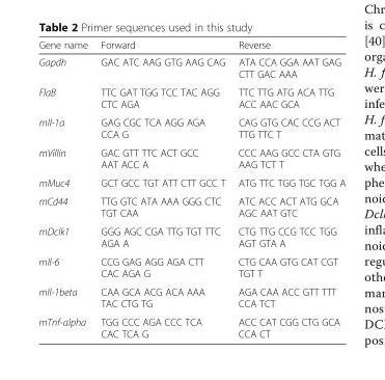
<table><thead><tr><td>Gene name</td><td>Forward</td><td>Reverse</td></tr></thead><tbody><tr><td>Gapdh</td><td>GAC ATC AAG GTG AAG CAG</td><td>ATA CCA GGA AAT GAG CTT GAC AAA</td></tr><tr><td>FlaB</td><td>TTC GAT TGG TCC TAC AGG CTC AGA</td><td>TTC TTG ATG ACA TTG ACC AAC GCA</td></tr><tr><td>mIl-1a</td><td>GAG CGC TCA AGG AGA CCA G</td><td>CAG GTG CAC CCG ACT TTG TTC T</td></tr><tr><td>mVillin</td><td>GAC GTT TTC ACT GCC AAT ACC A</td><td>CCC AAG GCC CTA GTG AAG TCT T</td></tr><tr><td>mMuc4</td><td>GCT GCC TGT ATT CTT GCC T</td><td>ATG TTC TGG TGC TGG A</td></tr><tr><td>mCd44</td><td>TTG GTC ATA AAA GGG CTC TGT CAA</td><td>ATC ACC ACT ATG GCA AGC AAT GTC</td></tr><tr><td>mDclk1</td><td>GGG AGC CGA TTG TGT TTC AGA A</td><td>CTG TTG CCG TCC TGG AGT GTA A</td></tr><tr><td>mIl-6</td><td>CCG GAG AGG AGA CTT CAC AGA G</td><td>CTG CAA GTG CAT CGT TGT T</td></tr><tr><td>mIl-1beta</td><td>CAA GCA ACG ACA AAA TAC CTG TG</td><td>AGA CAA ACC GTT TTT CCA TCT</td></tr><tr><td>mTnf-alpha</td><td>TGG CCC AGA CCC TCA CAC TCA G</td><td>ACC CAT CGG CTG GCA CCA CT</td></tr></tbody></table>